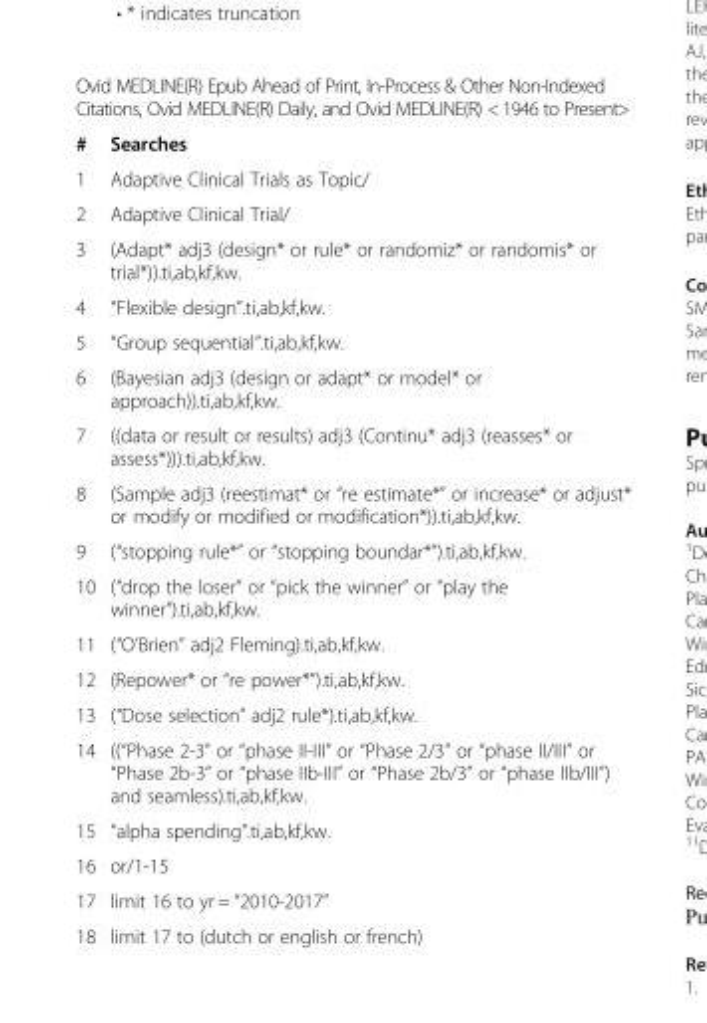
<table><tbody><tr><td colspan="2">Ovid MEDLINE(R) Epub Ahead of Print, In-Process &amp; Other Non-Indexed Citations, Ovid MEDLINE(R) Daily, and Ovid MEDLINE(R) &lt; 1946 to Present&gt;</td></tr><tr><td>#</td><td>Searches</td></tr><tr><td>1</td><td>Adaptive Clinical Trials as Topic/</td></tr><tr><td>2</td><td>Adaptive Clinical Trial/</td></tr><tr><td>3</td><td>(Adapt* adj3 (design* or rule* or randomiz* or randomis* or trial*)).ti,ab,kf,kw.</td></tr><tr><td>4</td><td>“Flexible design”.ti,ab,kf,kw.</td></tr><tr><td>5</td><td>“Group sequential”.ti,ab,kf,kw.</td></tr><tr><td>6</td><td>(Bayesian adj3 (design or adapt* or model* or approach)).ti,ab,kf,kw.</td></tr><tr><td>7</td><td>((data or result or results) adj3 (Continu* adj3 (reasses* or assess*))).ti,ab,kf,kw.</td></tr><tr><td>8</td><td>(Sample adj3 (reestimat* or “re estimate*” or increase* or adjust* or modify or modified or modification*)).ti,ab,kf,kw.</td></tr><tr><td>9</td><td>(“stopping rule*” or “stopping boundar*”).ti,ab,kf,kw.</td></tr><tr><td>10</td><td>(“drop the loser” or “pick the winner” or “play the winner”).ti,ab,kf,kw.</td></tr><tr><td>11</td><td>(“O’Brien” adj2 Fleming).ti,ab,kf,kw.</td></tr><tr><td>12</td><td>(Repower* or “re power*”).ti,ab,kf,kw.</td></tr><tr><td>13</td><td>(“Dose selection” adj2 rule*).ti,ab,kf,kw.</td></tr><tr><td>14</td><td>((“Phase 2-3” or “phase II-III” or “Phase 2/3” or “phase II/III” or “Phase 2b-3” or “phase IIb-III” or “Phase 2b/3” or “phase IIb/III”) and seamless).ti,ab,kf,kw.</td></tr><tr><td>15</td><td>“alpha spending”.ti,ab,kf,kw.</td></tr><tr><td>16</td><td>or/1-15</td></tr><tr><td>17</td><td>limit 16 to yr = “2010-2017”</td></tr><tr><td>18</td><td>limit 17 to (dutch or english or french)</td></tr></tbody></table>